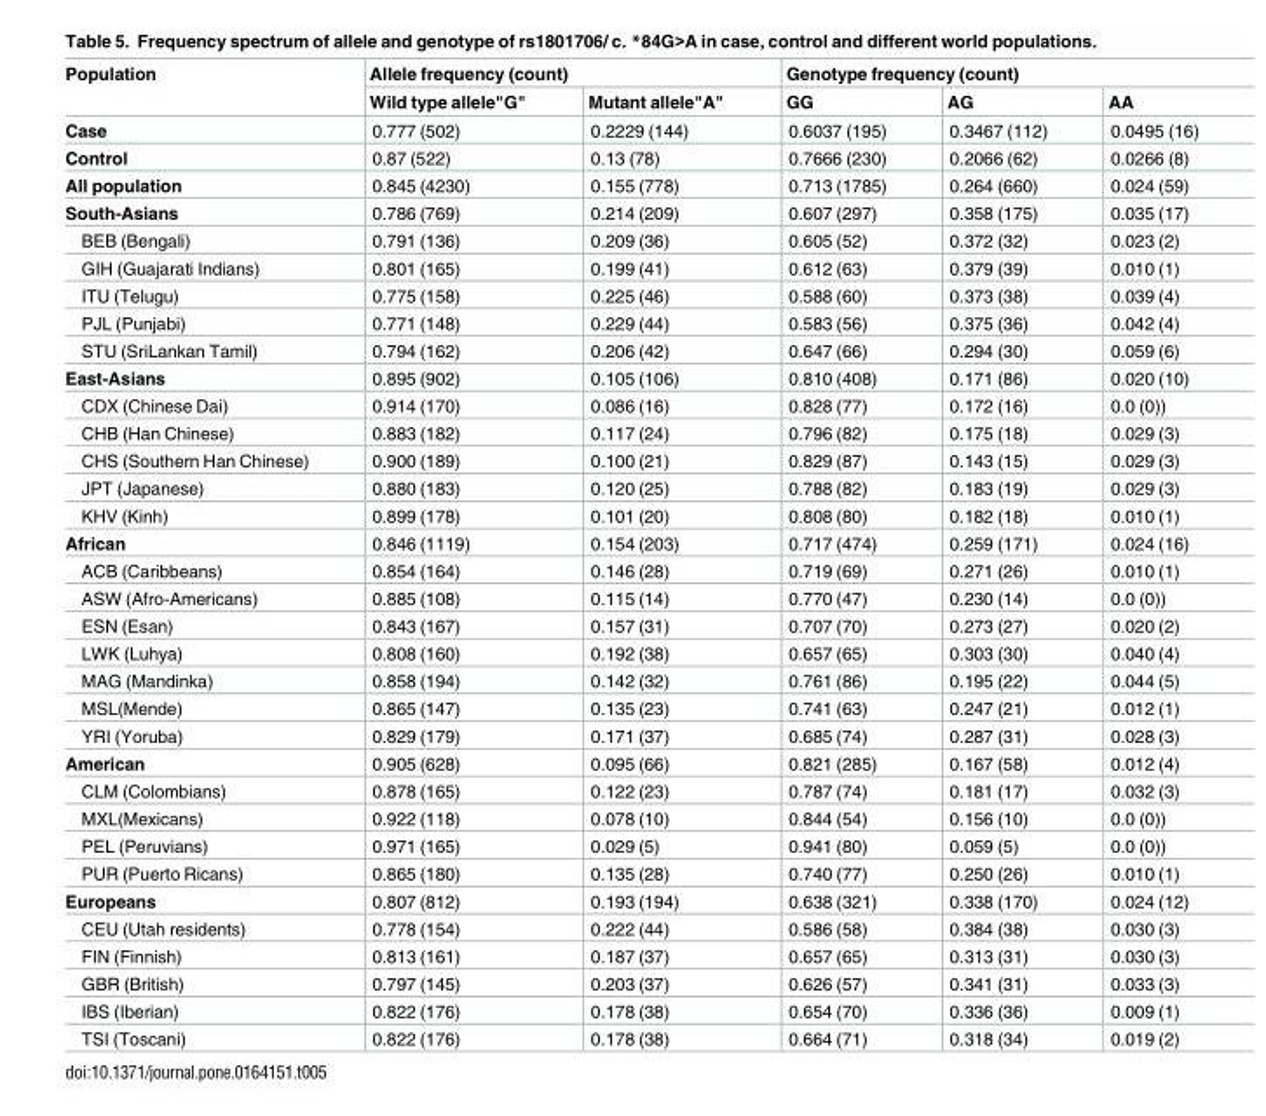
<table><thead><tr><td rowspan="2">Population</td><td colspan="2">Allele frequency (count)</td><td colspan="3">Genotype frequency (count)</td></tr><tr><td>Wild type allele&quot;G&quot;</td><td>Mutant allele&quot;A&quot;</td><td>GG</td><td>AG</td><td>AA</td></tr></thead><tbody><tr><td>Case</td><td>0.777 (502)</td><td>0.2229 (144)</td><td>0.6037 (195)</td><td>0.3467 (112)</td><td>0.0495 (16)</td></tr><tr><td>Control</td><td>0.87 (522)</td><td>0.13 (78)</td><td>0.7666 (230)</td><td>0.2066 (62)</td><td>0.0266 (8)</td></tr><tr><td>All population</td><td>0.845 (4230)</td><td>0.155 (778)</td><td>0.713 (1785)</td><td>0.264 (660)</td><td>0.024 (59)</td></tr><tr><td>South-Asians</td><td>0.786 (769)</td><td>0.214 (209)</td><td>0.607 (297)</td><td>0.358 (175)</td><td>0.035 (17)</td></tr><tr><td>BEB (Bengali)</td><td>0.791 (136)</td><td>0.209 (36)</td><td>0.605 (52)</td><td>0.372 (32)</td><td>0.023 (2)</td></tr><tr><td>GIH (Guajarati Indians)</td><td>0.801 (165)</td><td>0.199 (41)</td><td>0.612 (63)</td><td>0.379 (39)</td><td>0.010 (1)</td></tr><tr><td>ITU (Telugu)</td><td>0.775 (158)</td><td>0.225 (46)</td><td>0.588 (60)</td><td>0.373 (38)</td><td>0.039 (4)</td></tr><tr><td>PJL (Punjabi)</td><td>0.771 (148)</td><td>0.229 (44)</td><td>0.583 (56)</td><td>0.375 (36)</td><td>0.042 (4)</td></tr><tr><td>STU (SriLankan Tamil)</td><td>0.794 (162)</td><td>0.206 (42)</td><td>0.647 (66)</td><td>0.294 (30)</td><td>0.059 (6)</td></tr><tr><td>East-Asians</td><td>0.895 (902)</td><td>0.105 (106)</td><td>0.810 (408)</td><td>0.171 (86)</td><td>0.020 (10)</td></tr><tr><td>CDX (Chinese Dai)</td><td>0.914 (170)</td><td>0.086 (16)</td><td>0.828 (77)</td><td>0.172 (16)</td><td>0.0 (0))</td></tr><tr><td>CHB (Han Chinese)</td><td>0.883 (182)</td><td>0.117 (24)</td><td>0.796 (82)</td><td>0.175 (18)</td><td>0.029 (3)</td></tr><tr><td>CHS (Southern Han Chinese)</td><td>0.900 (189)</td><td>0.100 (21)</td><td>0.829 (87)</td><td>0.143 (15)</td><td>0.029 (3)</td></tr><tr><td>JPT (Japanese)</td><td>0.880 (183)</td><td>0.120 (25)</td><td>0.788 (82)</td><td>0.183 (19)</td><td>0.029 (3)</td></tr><tr><td>KHV (Kinh)</td><td>0.899 (178)</td><td>0.101 (20)</td><td>0.808 (80)</td><td>0.182 (18)</td><td>0.010 (1)</td></tr><tr><td>African</td><td>0.846 (1119)</td><td>0.154 (203)</td><td>0.717 (474)</td><td>0.259 (171)</td><td>0.024 (16)</td></tr><tr><td>ACB (Caribbeans)</td><td>0.854 (164)</td><td>0.146 (28)</td><td>0.719 (69)</td><td>0.271 (26)</td><td>0.010 (1)</td></tr><tr><td>ASW (Afro-Americans)</td><td>0.885 (108)</td><td>0.115 (14)</td><td>0.770 (47)</td><td>0.230 (14)</td><td>0.0 (0))</td></tr><tr><td>ESN (Esan)</td><td>0.843 (167)</td><td>0.157 (31)</td><td>0.707 (70)</td><td>0.273 (27)</td><td>0.020 (2)</td></tr><tr><td>LWK (Luhya)</td><td>0.808 (160)</td><td>0.192 (38)</td><td>0.657 (65)</td><td>0.303 (30)</td><td>0.040 (4)</td></tr><tr><td>MAG (Mandinka)</td><td>0.858 (194)</td><td>0.142 (32)</td><td>0.761 (86)</td><td>0.195 (22)</td><td>0.044 (5)</td></tr><tr><td>MSL(Mende)</td><td>0.865 (147)</td><td>0.135 (23)</td><td>0.741 (63)</td><td>0.247 (21)</td><td>0.012 (1)</td></tr><tr><td>YRI (Yoruba)</td><td>0.829 (179)</td><td>0.171 (37)</td><td>0.685 (74)</td><td>0.287 (31)</td><td>0.028 (3)</td></tr><tr><td>American</td><td>0.905 (628)</td><td>0.095 (66)</td><td>0.821 (285)</td><td>0.167 (58)</td><td>0.012 (4)</td></tr><tr><td>CLM (Colombians)</td><td>0.878 (165)</td><td>0.122 (23)</td><td>0.787 (74)</td><td>0.181 (17)</td><td>0.032 (3)</td></tr><tr><td>MXL(Mexicans)</td><td>0.922 (118)</td><td>0.078 (10)</td><td>0.844 (54)</td><td>0.156 (10)</td><td>0.0 (0))</td></tr><tr><td>PEL (Peruvians)</td><td>0.971 (165)</td><td>0.029 (5)</td><td>0.941 (80)</td><td>0.059 (5)</td><td>0.0 (0))</td></tr><tr><td>PUR (Puerto Ricans)</td><td>0.865 (180)</td><td>0.135 (28)</td><td>0.740 (77)</td><td>0.250 (26)</td><td>0.010 (1)</td></tr><tr><td>Europeans</td><td>0.807 (812)</td><td>0.193 (194)</td><td>0.638 (321)</td><td>0.338 (170)</td><td>0.024 (12)</td></tr><tr><td>CEU (Utah residents)</td><td>0.778 (154)</td><td>0.222 (44)</td><td>0.586 (58)</td><td>0.384 (38)</td><td>0.030 (3)</td></tr><tr><td>FIN (Finnish)</td><td>0.813 (161)</td><td>0.187 (37)</td><td>0.657 (65)</td><td>0.313 (31)</td><td>0.030 (3)</td></tr><tr><td>GBR (British)</td><td>0.797 (145)</td><td>0.203 (37)</td><td>0.626 (57)</td><td>0.341 (31)</td><td>0.033 (3)</td></tr><tr><td>IBS (Iberian)</td><td>0.822 (176)</td><td>0.178 (38)</td><td>0.654 (70)</td><td>0.336 (36)</td><td>0.009 (1)</td></tr><tr><td>TSI (Toscani)</td><td>0.822 (176)</td><td>0.178 (38)</td><td>0.664 (71)</td><td>0.318 (34)</td><td>0.019 (2)</td></tr></tbody></table>